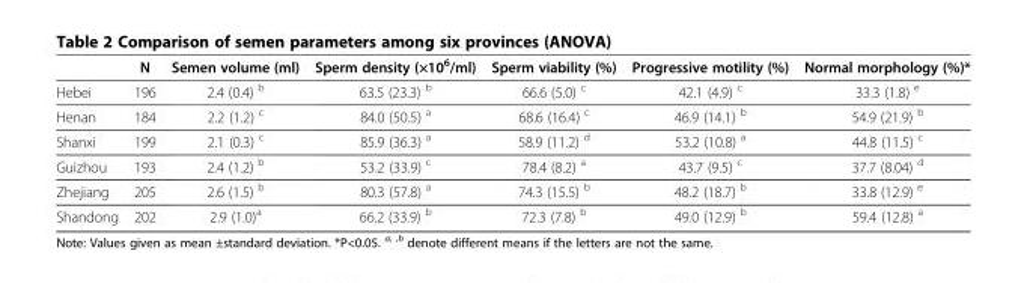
<table><thead><tr><td></td><td>N</td><td>Semen volume (ml)</td><td>Sperm density (×10<sup>6</sup>/ml)</td><td>Sperm viability (%)</td><td>Progressive motility (%)</td><td>Normal morphology (%)*</td></tr></thead><tbody><tr><td>Hebei</td><td>196</td><td>2.4 (0.4) <sup>b</sup></td><td>63.5 (23.3) <sup>b</sup></td><td>66.6 (5.0) <sup>c</sup></td><td>42.1 (4.9) <sup>c</sup></td><td>33.3 (1.8) <sup>e</sup></td></tr><tr><td>Henan</td><td>184</td><td>2.2 (1.2) <sup>c</sup></td><td>84.0 (50.5) <sup>a</sup></td><td>68.6 (16.4) <sup>c</sup></td><td>46.9 (14.1) <sup>b</sup></td><td>54.9 (21.9) <sup>b</sup></td></tr><tr><td>Shanxi</td><td>199</td><td>2.1 (0.3) <sup>c</sup></td><td>85.9 (36.3) <sup>a</sup></td><td>58.9 (11.2) <sup>d</sup></td><td>53.2 (10.8) <sup>a</sup></td><td>44.8 (11.5) <sup>c</sup></td></tr><tr><td>Guizhou</td><td>193</td><td>2.4 (1.2) <sup>b</sup></td><td>53.2 (33.9) <sup>c</sup></td><td>78.4 (8.2) <sup>a</sup></td><td>43.7 (9.5) <sup>c</sup></td><td>37.7 (8.04) <sup>d</sup></td></tr><tr><td>Zhejiang</td><td>205</td><td>2.6 (1.5) <sup>b</sup></td><td>80.3 (57.8) <sup>a</sup></td><td>74.3 (15.5) <sup>b</sup></td><td>48.2 (18.7) <sup>b</sup></td><td>33.8 (12.9) <sup>e</sup></td></tr><tr><td>Shandong</td><td>202</td><td>2.9 (1.0)<sup>a</sup></td><td>66.2 (33.9) <sup>b</sup></td><td>72.3 (7.8) <sup>b</sup></td><td>49.0 (12.9) <sup>b</sup></td><td>59.4 (12.8) <sup>a</sup></td></tr></tbody></table>